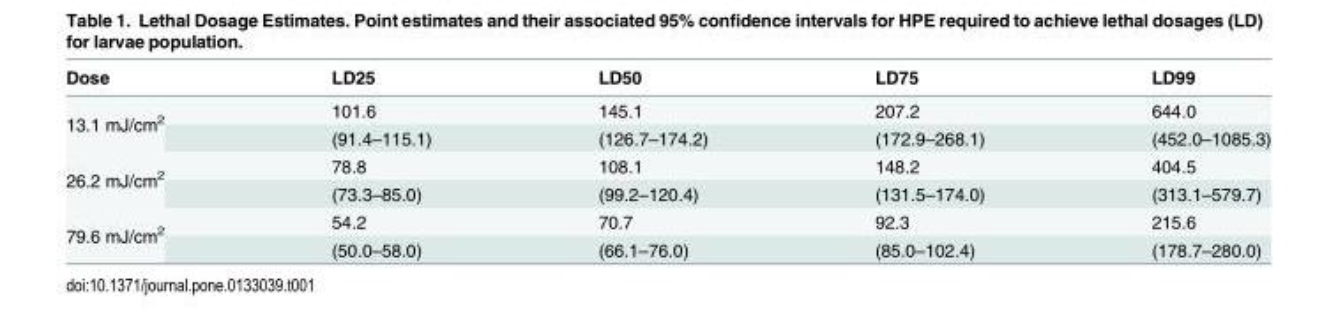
<table><thead><tr><td>Dose</td><td>LD25</td><td>LD50</td><td>LD75</td><td>LD99</td></tr></thead><tbody><tr><td rowspan="2">13.1 mJ/cm<sup>2</sup></td><td>101.6</td><td>145.1</td><td>207.2</td><td>644.0</td></tr><tr><td>(91.4–115.1)</td><td>(126.7–174.2)</td><td>(172.9–268.1)</td><td>(452.0–1085.3)</td></tr><tr><td rowspan="2">26.2 mJ/cm<sup>2</sup></td><td>78.8</td><td>108.1</td><td>148.2</td><td>404.5</td></tr><tr><td>(73.3–85.0)</td><td>(99.2–120.4)</td><td>(131.5–174.0)</td><td>(313.1–579.7)</td></tr><tr><td rowspan="2">79.6 mJ/cm<sup>2</sup></td><td>54.2</td><td>70.7</td><td>92.3</td><td>215.6</td></tr><tr><td>(50.0–58.0)</td><td>(66.1–76.0)</td><td>(85.0–102.4)</td><td>(178.7–280.0)</td></tr></tbody></table>